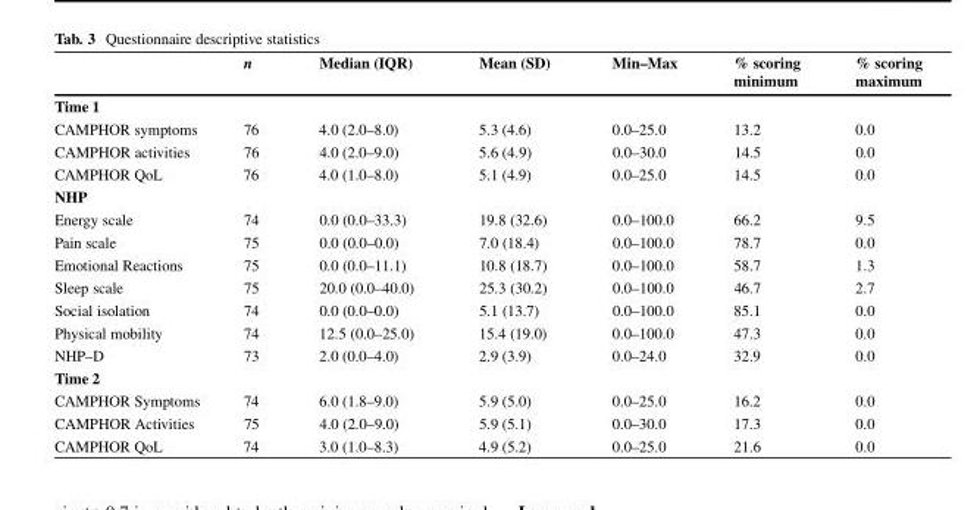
<table><thead><tr><td></td><td>n</td><td>Median (IQR)</td><td>Mean (SD)</td><td>Min–Max</td><td>% scoring minimum</td><td>% scoring maximum</td></tr></thead><tbody><tr><td colspan="7">Time 1</td></tr><tr><td>CAMPHOR symptoms</td><td>76</td><td>4.0 (2.0–8.0)</td><td>5.3 (4.6)</td><td>0.0–25.0</td><td>13.2</td><td>0.0</td></tr><tr><td>CAMPHOR activities</td><td>76</td><td>4.0 (2.0–9.0)</td><td>5.6 (4.9)</td><td>0.0–30.0</td><td>14.5</td><td>0.0</td></tr><tr><td>CAMPHOR QoL</td><td>76</td><td>4.0 (1.0–8.0)</td><td>5.1 (4.9)</td><td>0.0–25.0</td><td>14.5</td><td>0.0</td></tr><tr><td colspan="7">NHP</td></tr><tr><td>Energy scale</td><td>74</td><td>0.0 (0.0–33.3)</td><td>19.8 (32.6)</td><td>0.0–100.0</td><td>66.2</td><td>9.5</td></tr><tr><td>Pain scale</td><td>75</td><td>0.0 (0.0–0.0)</td><td>7.0 (18.4)</td><td>0.0–100.0</td><td>78.7</td><td>0.0</td></tr><tr><td>Emotional Reactions</td><td>75</td><td>0.0 (0.0–11.1)</td><td>10.8 (18.7)</td><td>0.0–100.0</td><td>58.7</td><td>1.3</td></tr><tr><td>Sleep scale</td><td>75</td><td>20.0 (0.0–40.0)</td><td>25.3 (30.2)</td><td>0.0–100.0</td><td>46.7</td><td>2.7</td></tr><tr><td>Social isolation</td><td>74</td><td>0.0 (0.0–0.0)</td><td>5.1 (13.7)</td><td>0.0–100.0</td><td>85.1</td><td>0.0</td></tr><tr><td>Physical mobility</td><td>74</td><td>12.5 (0.0–25.0)</td><td>15.4 (19.0)</td><td>0.0–100.0</td><td>47.3</td><td>0.0</td></tr><tr><td>NHP–D</td><td>73</td><td>2.0 (0.0–4.0)</td><td>2.9 (3.9)</td><td>0.0–24.0</td><td>32.9</td><td>0.0</td></tr><tr><td colspan="7">Time 2</td></tr><tr><td>CAMPHOR Symptoms</td><td>74</td><td>6.0 (1.8–9.0)</td><td>5.9 (5.0)</td><td>0.0–25.0</td><td>16.2</td><td>0.0</td></tr><tr><td>CAMPHOR Activities</td><td>75</td><td>4.0 (2.0–9.0)</td><td>5.9 (5.1)</td><td>0.0–30.0</td><td>17.3</td><td>0.0</td></tr><tr><td>CAMPHOR QoL</td><td>74</td><td>3.0 (1.0–8.3)</td><td>4.9 (5.2)</td><td>0.0–25.0</td><td>21.6</td><td>0.0</td></tr></tbody></table>